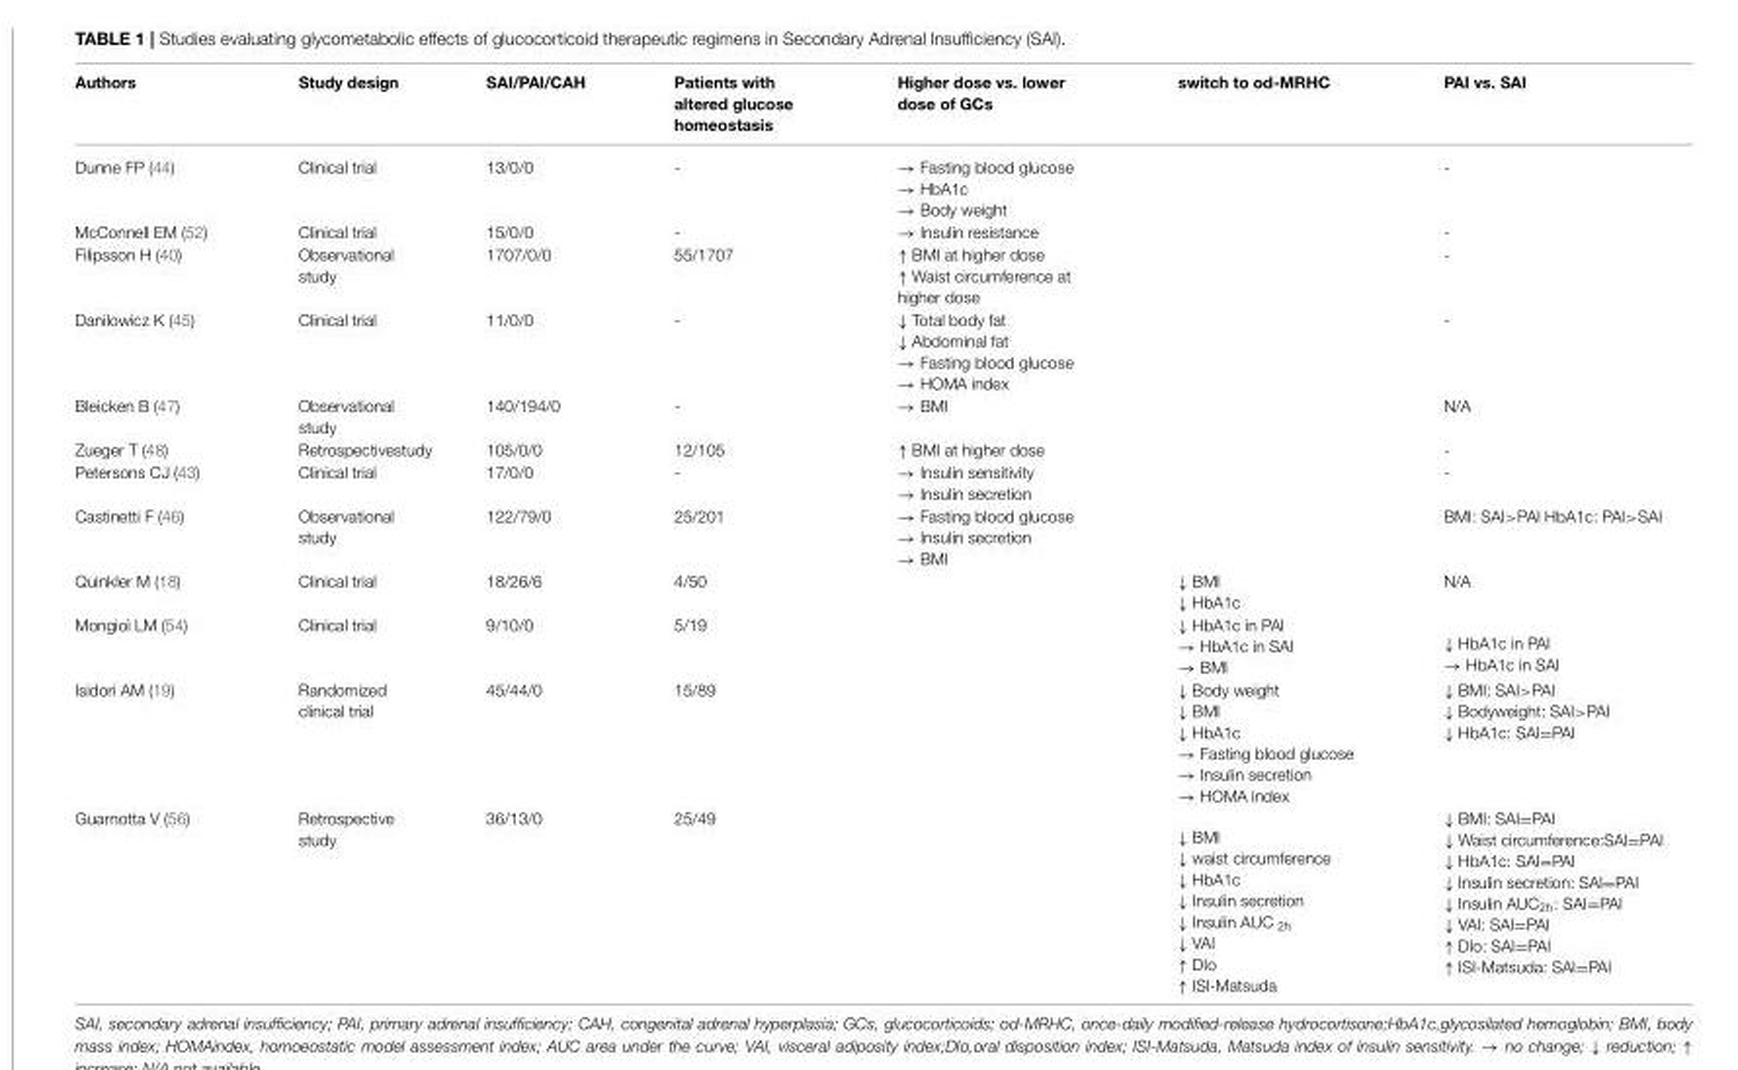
<table><thead><tr><td>Authors</td><td>Study design</td><td>SAI/PAI/CAH</td><td>Patients with altered glucose homeostasis</td><td>Higher dose vs. lower dose of GCs</td><td>switch to od-MRHC</td><td>PAI vs. SAI</td></tr></thead><tbody><tr><td>Dunne FP (44)</td><td>Clinical trial</td><td>13/0/0</td><td>-</td><td>→ Fasting blood glucose → HbA1c → Body weight</td><td></td><td>-</td></tr><tr><td>McConnell EM (52)</td><td>Clinical trial</td><td>15/0/0</td><td>-</td><td>→ Insulin resistance</td><td></td><td>-</td></tr><tr><td>Filipsson H (40)</td><td>Observational study</td><td>1707/0/0</td><td>55/1707</td><td>↑ BMI at higher dose ↑ Waist circumference at higher dose</td><td></td><td>-</td></tr><tr><td>Danilowicz K (45)</td><td>Clinical trial</td><td>11/0/0</td><td>-</td><td>↓ Total body fat ↓ Abdominal fat → Fasting blood glucose → HOMA index</td><td></td><td>-</td></tr><tr><td>Bleicken B (47)</td><td>Observational study</td><td>140/194/0</td><td>-</td><td>→ BMI</td><td></td><td>N/A</td></tr><tr><td>Zueger T (48)</td><td>Retrospectivestudy</td><td>105/0/0</td><td>12/105</td><td>↑ BMI at higher dose</td><td></td><td>-</td></tr><tr><td>Petersons CJ (43)</td><td>Clinical trial</td><td>17/0/0</td><td>-</td><td>→ Insulin sensitivity → Insulin secretion</td><td></td><td>-</td></tr><tr><td>Castinetti F (46)</td><td>Observational study</td><td>122/79/0</td><td>25/201</td><td>→ Fasting blood glucose → Insulin secretion → BMI</td><td></td><td>BMI: SAI&gt;PAI HbA1c: PAI&gt;SAI</td></tr><tr><td>Quinkler M (18)</td><td>Clinical trial</td><td>18/26/6</td><td>4/50</td><td></td><td>↓ BMI ↓ HbA1c</td><td>N/A</td></tr><tr><td>Mongioì LM (54)</td><td>Clinical trial</td><td>9/10/0</td><td>5/19</td><td></td><td>↓ HbA1c in PAI → HbA1c in SAI → BMI</td><td>↓ HbA1c in PAI → HbA1c in SAI</td></tr><tr><td>Isidori AM (19)</td><td>Randomized clinical trial</td><td>45/44/0</td><td>15/89</td><td></td><td>↓ Body weight ↓ BMI ↓ HbA1c → Fasting blood glucose → Insulin secretion → HOMA index</td><td>↓ BMI: SAI&gt;PAI ↓ Bodyweight: SAI&gt;PAI ↓ HbA1c: SAI=PAI</td></tr><tr><td>Guarnotta V (56)</td><td>Retrospective study</td><td>36/13/0</td><td>25/49</td><td></td><td>↓ BMI ↓ waist circumference ↓ HbA1c ↓ Insulin secretion ↓ Insulin AUC <sub>2h</sub> ↓ VAI ↑ DIo ↑ ISI-Matsuda</td><td>↓ BMI: SAI=PAI ↓ Waist circumference:SAI=PAI ↓ HbA1c: SAI=PAI ↓ Insulin secretion: SAI=PAI ↓ Insulin AUC<sub>2h</sub>: SAI=PAI ↓ VAI: SAI=PAI ↑ DIo: SAI=PAI ↑ ISI-Matsuda: SAI=PAI</td></tr></tbody></table>